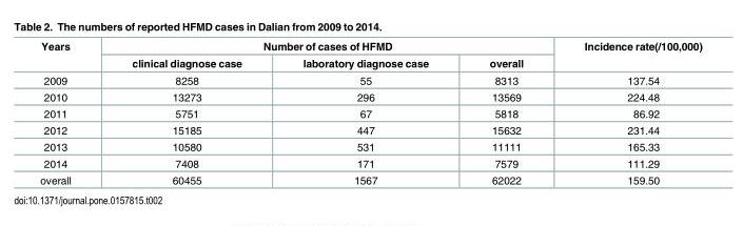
<table><thead><tr><td rowspan="2">Years</td><td colspan="3">Number of cases of HFMD</td><td rowspan="2">Incidence rate(/100,000)</td></tr><tr><td>clinical diagnose case</td><td>laboratory diagnose case</td><td>overall</td></tr></thead><tbody><tr><td>2009</td><td>8258</td><td>55</td><td>8313</td><td>137.54</td></tr><tr><td>2010</td><td>13273</td><td>296</td><td>13569</td><td>224.48</td></tr><tr><td>2011</td><td>5751</td><td>67</td><td>5818</td><td>86.92</td></tr><tr><td>2012</td><td>15185</td><td>447</td><td>15632</td><td>231.44</td></tr><tr><td>2013</td><td>10580</td><td>531</td><td>11111</td><td>165.33</td></tr><tr><td>2014</td><td>7408</td><td>171</td><td>7579</td><td>111.29</td></tr><tr><td>overall</td><td>60455</td><td>1567</td><td>62022</td><td>159.50</td></tr></tbody></table>